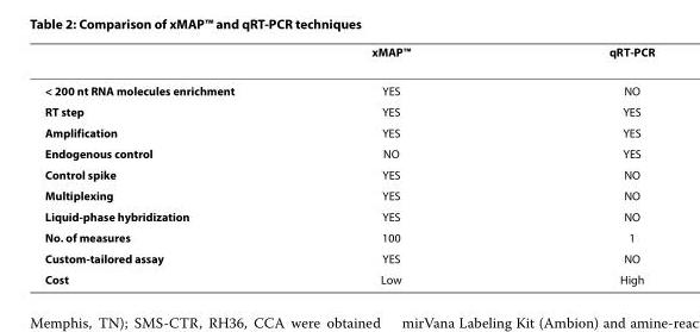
<table><thead><tr><td></td><td>xMAP™</td><td>qRT-PCR</td></tr></thead><tbody><tr><td>&lt; 200 nt RNA molecules enrichment</td><td>YES</td><td>NO</td></tr><tr><td>RT step</td><td>YES</td><td>YES</td></tr><tr><td>Amplification</td><td>YES</td><td>YES</td></tr><tr><td>Endogenous control</td><td>NO</td><td>YES</td></tr><tr><td>Control spike</td><td>YES</td><td>NO</td></tr><tr><td>Multiplexing</td><td>YES</td><td>NO</td></tr><tr><td>Liquid-phase hybridization</td><td>YES</td><td>NO</td></tr><tr><td>No. of measures</td><td>100</td><td>1</td></tr><tr><td>Custom-tailored assay</td><td>YES</td><td>NO</td></tr><tr><td>Cost</td><td>Low</td><td>High</td></tr></tbody></table>